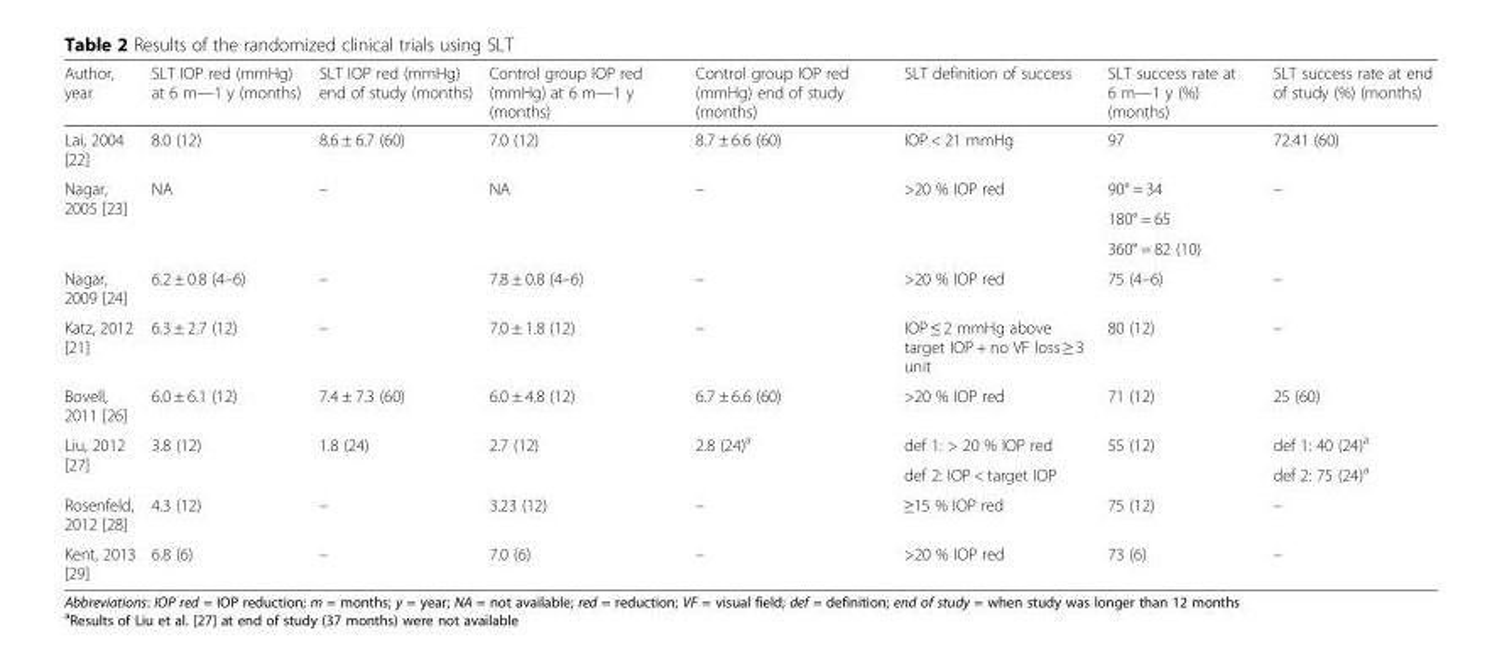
<table><thead><tr><td>Author, year</td><td>SLT IOP red (mmHg) at 6 m—1 y (months)</td><td>SLT IOP red (mmHg) end of study (months)</td><td>Control group IOP red (mmHg) at 6 m—1 y (months)</td><td>Control group IOP red (mmHg) end of study (months)</td><td>SLT definition of success</td><td>SLT success rate at 6 m—1 y (%) (months)</td><td>SLT success rate at end of study (%) (months)</td></tr></thead><tbody><tr><td>Lai, 2004 [22]</td><td>8.0 (12)</td><td>8.6 ± 6.7 (60)</td><td>7.0 (12)</td><td>8.7 ± 6.6 (60)</td><td>IOP &lt; 21 mmHg</td><td>97</td><td>72.41 (60)</td></tr><tr><td rowspan="3">Nagar, 2005 [23]</td><td rowspan="3">NA</td><td rowspan="3">–</td><td rowspan="3">NA</td><td rowspan="3">–</td><td rowspan="3">&gt;20 % IOP red</td><td>90° = 34</td><td rowspan="3">–</td></tr><tr><td>180° = 65</td></tr><tr><td>360° = 82 (10)</td></tr><tr><td>Nagar, 2009 [24]</td><td>6.2 ± 0.8 (4–6)</td><td>–</td><td>7.8 ± 0.8 (4–6)</td><td>–</td><td>&gt;20 % IOP red</td><td>75 (4–6)</td><td>–</td></tr><tr><td>Katz, 2012 [21]</td><td>6.3 ± 2.7 (12)</td><td>–</td><td>7.0 ± 1.8 (12)</td><td>–</td><td>IOP ≤ 2 mmHg above target IOP + no VF loss ≥ 3 unit</td><td>80 (12)</td><td>–</td></tr><tr><td>Bovell, 2011 [26]</td><td>6.0 ± 6.1 (12)</td><td>7.4 ± 7.3 (60)</td><td>6.0 ± 4.8 (12)</td><td>6.7 ± 6.6 (60)</td><td>&gt;20 % IOP red</td><td>71 (12)</td><td>25 (60)</td></tr><tr><td rowspan="2">Liu, 2012 [27]</td><td rowspan="2">3.8 (12)</td><td rowspan="2">1.8 (24)</td><td rowspan="2">2.7 (12)</td><td rowspan="2">2.8 (24)<sup>a</sup></td><td>def 1: &gt; 20 % IOP red</td><td rowspan="2">55 (12)</td><td>def 1: 40 (24)<sup>a</sup></td></tr><tr><td>def 2: IOP &lt; target IOP</td><td>def 2: 75 (24)<sup>a</sup></td></tr><tr><td>Rosenfeld, 2012 [28]</td><td>4.3 (12)</td><td>–</td><td>3.23 (12)</td><td>–</td><td>≥15 % IOP red</td><td>75 (12)</td><td>–</td></tr><tr><td>Kent, 2013 [29]</td><td>6.8 (6)</td><td>–</td><td>7.0 (6)</td><td>–</td><td>&gt;20 % IOP red</td><td>73 (6)</td><td>–</td></tr></tbody></table>